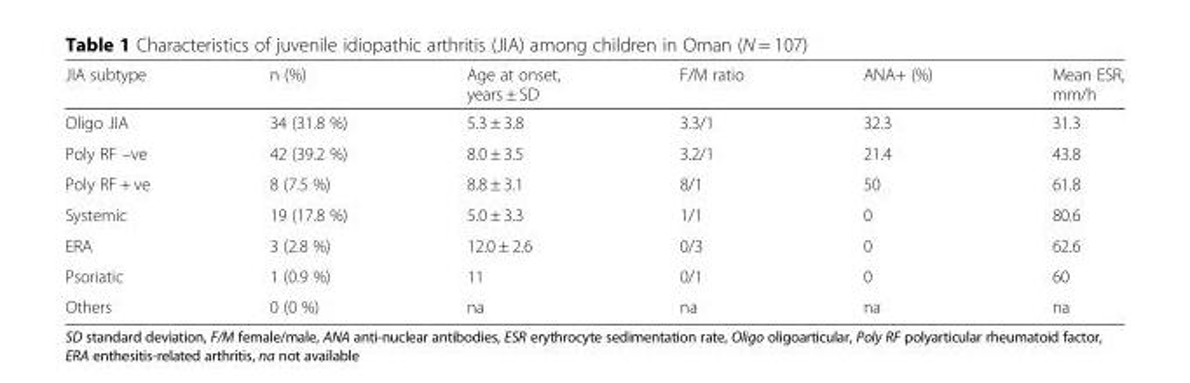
<table><thead><tr><td>JIA subtype</td><td>n (%)</td><td>Age at onset, years ± SD</td><td>F/M ratio</td><td>ANA+ (%)</td><td>Mean ESR, mm/h</td></tr></thead><tbody><tr><td>Oligo JIA</td><td>34 (31.8 %)</td><td>5.3 ± 3.8</td><td>3.3/1</td><td>32.3</td><td>31.3</td></tr><tr><td>Poly RF –ve</td><td>42 (39.2 %)</td><td>8.0 ± 3.5</td><td>3.2/1</td><td>21.4</td><td>43.8</td></tr><tr><td>Poly RF + ve</td><td>8 (7.5 %)</td><td>8.8 ± 3.1</td><td>8/1</td><td>50</td><td>61.8</td></tr><tr><td>Systemic</td><td>19 (17.8 %)</td><td>5.0 ± 3.3</td><td>1/1</td><td>0</td><td>80.6</td></tr><tr><td>ERA</td><td>3 (2.8 %)</td><td>12.0 ± 2.6</td><td>0/3</td><td>0</td><td>62.6</td></tr><tr><td>Psoriatic</td><td>1 (0.9 %)</td><td>11</td><td>0/1</td><td>0</td><td>60</td></tr><tr><td>Others</td><td>0 (0 %)</td><td>na</td><td>na</td><td>na</td><td>na</td></tr></tbody></table>